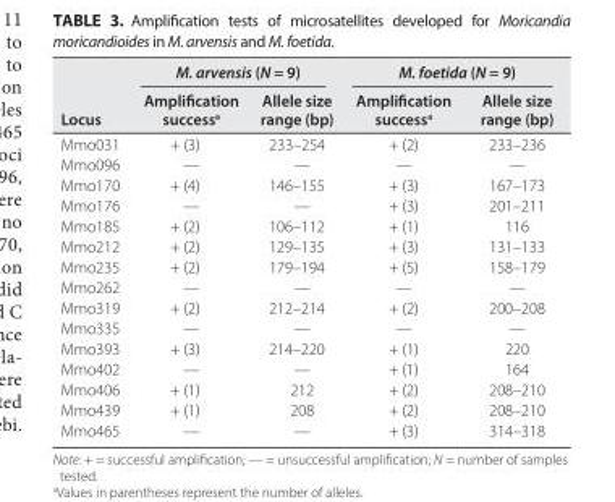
<table><thead><tr><td rowspan="2">Locus</td><td colspan="2">M. arvensis (N = 9)</td><td colspan="2">M. foetida (N = 9)</td></tr><tr><td>Amplification success<sup>a</sup></td><td>Allele size range (bp)</td><td>Amplification success<sup>a</sup></td><td>Allele size range (bp)</td></tr></thead><tbody><tr><td>Mmo031</td><td>+ (3)</td><td>233–254</td><td>+ (2)</td><td>233–236</td></tr><tr><td>Mmo096</td><td>—</td><td>—</td><td>—</td><td>—</td></tr><tr><td>Mmo170</td><td>+ (4)</td><td>146–155</td><td>+ (3)</td><td>167–173</td></tr><tr><td>Mmo176</td><td>—</td><td>—</td><td>+ (3)</td><td>201–211</td></tr><tr><td>Mmo185</td><td>+ (2)</td><td>106–112</td><td>+ (1)</td><td>116</td></tr><tr><td>Mmo212</td><td>+ (2)</td><td>129–135</td><td>+ (3)</td><td>131–133</td></tr><tr><td>Mmo235</td><td>+ (2)</td><td>179–194</td><td>+ (5)</td><td>158–179</td></tr><tr><td>Mmo262</td><td>—</td><td>—</td><td>—</td><td>—</td></tr><tr><td>Mmo319</td><td>+ (2)</td><td>212–214</td><td>+ (2)</td><td>200–208</td></tr><tr><td>Mmo335</td><td>—</td><td>—</td><td>—</td><td>—</td></tr><tr><td>Mmo393</td><td>+ (3)</td><td>214–220</td><td>+ (1)</td><td>220</td></tr><tr><td>Mmo402</td><td>—</td><td>—</td><td>+ (1)</td><td>164</td></tr><tr><td>Mmo406</td><td>+ (1)</td><td>212</td><td>+ (2)</td><td>208–210</td></tr><tr><td>Mmo439</td><td>+ (1)</td><td>208</td><td>+ (2)</td><td>208–210</td></tr><tr><td>Mmo465</td><td>—</td><td>—</td><td>+ (3)</td><td>314–318</td></tr></tbody></table>